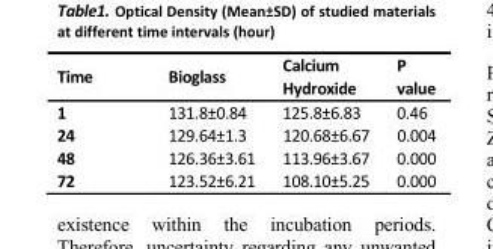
<table><thead><tr><td>Time</td><td>Bioglass</td><td>Calcium Hydroxide</td><td>P value</td></tr></thead><tbody><tr><td>1</td><td>131.8±0.84</td><td>125.8±6.83</td><td>0.46</td></tr><tr><td>24</td><td>129.64±1.3</td><td>120.68±6.67</td><td>0.004</td></tr><tr><td>48</td><td>126.36±3.61</td><td>113.96±3.67</td><td>0.000</td></tr><tr><td>72</td><td>123.52±6.21</td><td>108.10±5.25</td><td>0.000</td></tr></tbody></table>